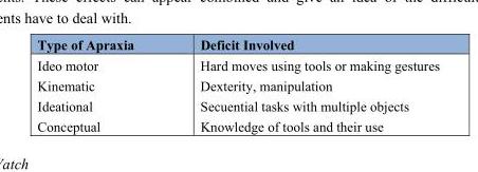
<table><thead><tr><td>Type of Apraxia</td><td>Deficit Involved</td></tr></thead><tbody><tr><td>Ideo motor</td><td>Hard moves using tools or making gestures</td></tr><tr><td>Kinematic</td><td>Dexterity, manipulation</td></tr><tr><td>Ideational</td><td>Secuential tasks with multiple objects</td></tr><tr><td>Conceptual</td><td>Knowledge of tools and their use</td></tr></tbody></table>